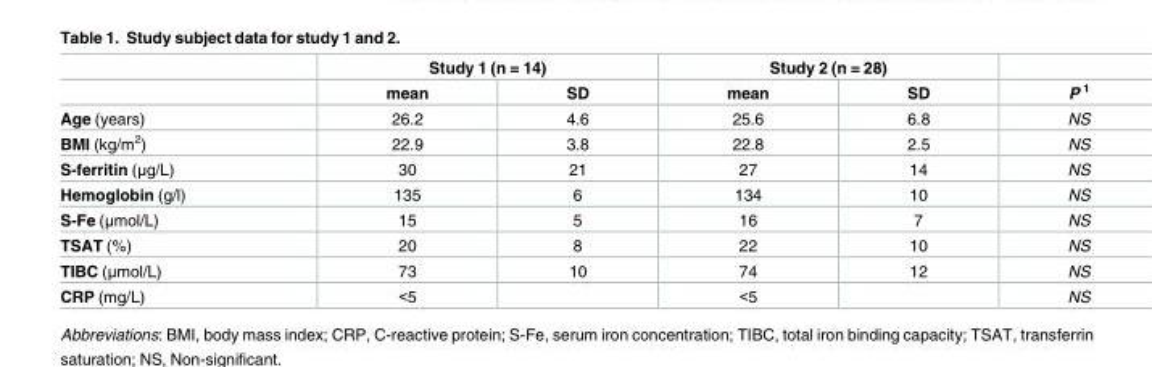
<table><thead><tr><td rowspan="2"></td><td colspan="2">Study 1 (n = 14)</td><td colspan="2">Study 2 (n = 28)</td><td rowspan="2">P <sup>1</sup></td></tr><tr><td>mean</td><td>SD</td><td>mean</td><td>SD</td></tr></thead><tbody><tr><td>Age (years)</td><td>26.2</td><td>4.6</td><td>25.6</td><td>6.8</td><td>NS</td></tr><tr><td>BMI (kg/m<sup>2</sup>)</td><td>22.9</td><td>3.8</td><td>22.8</td><td>2.5</td><td>NS</td></tr><tr><td>S-ferritin (μg/L)</td><td>30</td><td>21</td><td>27</td><td>14</td><td>NS</td></tr><tr><td>Hemoglobin (g/l)</td><td>135</td><td>6</td><td>134</td><td>10</td><td>NS</td></tr><tr><td>S-Fe (μmol/L)</td><td>15</td><td>5</td><td>16</td><td>7</td><td>NS</td></tr><tr><td>TSAT (%)</td><td>20</td><td>8</td><td>22</td><td>10</td><td>NS</td></tr><tr><td>TIBC (μmol/L)</td><td>73</td><td>10</td><td>74</td><td>12</td><td>NS</td></tr><tr><td>CRP (mg/L)</td><td>&lt;5</td><td></td><td>&lt;5</td><td></td><td>NS</td></tr></tbody></table>